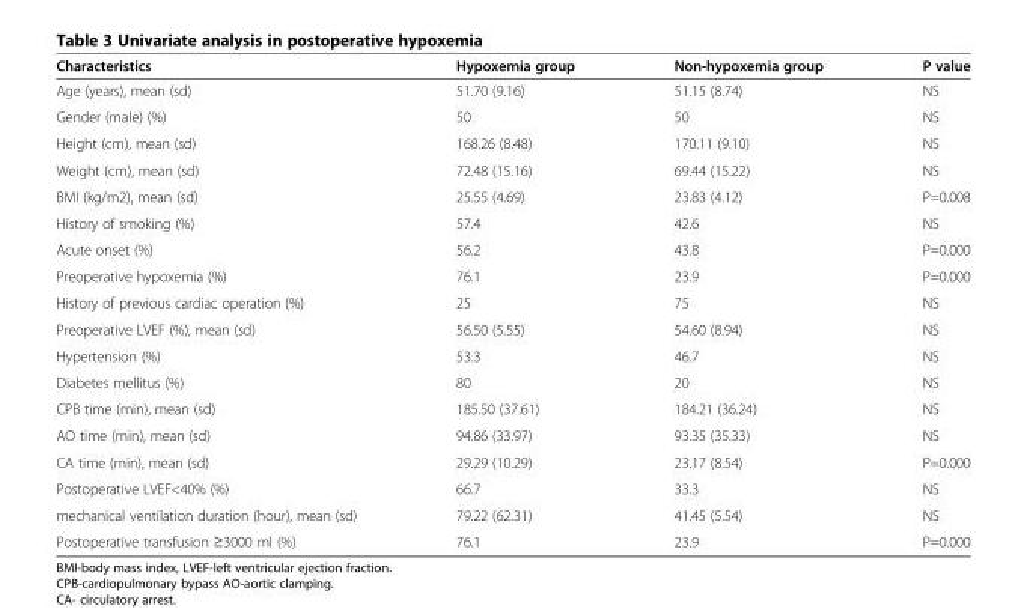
<table><thead><tr><td>Characteristics</td><td>Hypoxemia group</td><td>Non-hypoxemia group</td><td>P value</td></tr></thead><tbody><tr><td>Age (years), mean (sd)</td><td>51.70 (9.16)</td><td>51.15 (8.74)</td><td>NS</td></tr><tr><td>Gender (male) (%)</td><td>50</td><td>50</td><td>NS</td></tr><tr><td>Height (cm), mean (sd)</td><td>168.26 (8.48)</td><td>170.11 (9.10)</td><td>NS</td></tr><tr><td>Weight (cm), mean (sd)</td><td>72.48 (15.16)</td><td>69.44 (15.22)</td><td>NS</td></tr><tr><td>BMI (kg/m2), mean (sd)</td><td>25.55 (4.69)</td><td>23.83 (4.12)</td><td>P=0.008</td></tr><tr><td>History of smoking (%)</td><td>57.4</td><td>42.6</td><td>NS</td></tr><tr><td>Acute onset (%)</td><td>56.2</td><td>43.8</td><td>P=0.000</td></tr><tr><td>Preoperative hypoxemia (%)</td><td>76.1</td><td>23.9</td><td>P=0.000</td></tr><tr><td>History of previous cardiac operation (%)</td><td>25</td><td>75</td><td>NS</td></tr><tr><td>Preoperative LVEF (%), mean (sd)</td><td>56.50 (5.55)</td><td>54.60 (8.94)</td><td>NS</td></tr><tr><td>Hypertension (%)</td><td>53.3</td><td>46.7</td><td>NS</td></tr><tr><td>Diabetes mellitus (%)</td><td>80</td><td>20</td><td>NS</td></tr><tr><td>CPB time (min), mean (sd)</td><td>185.50 (37.61)</td><td>184.21 (36.24)</td><td>NS</td></tr><tr><td>AO time (min), mean (sd)</td><td>94.86 (33.97)</td><td>93.35 (35.33)</td><td>NS</td></tr><tr><td>CA time (min), mean (sd)</td><td>29.29 (10.29)</td><td>23.17 (8.54)</td><td>P=0.000</td></tr><tr><td>Postoperative LVEF&lt;40% (%)</td><td>66.7</td><td>33.3</td><td>NS</td></tr><tr><td>mechanical ventilation duration (hour), mean (sd)</td><td>79.22 (62.31)</td><td>41.45 (5.54)</td><td>NS</td></tr><tr><td>Postoperative transfusion ≥3000 ml (%)</td><td>76.1</td><td>23.9</td><td>P=0.000</td></tr></tbody></table>